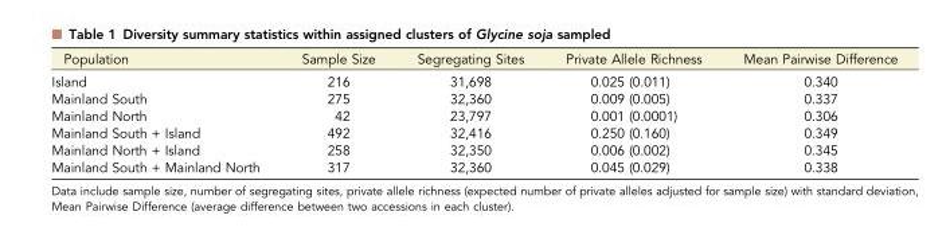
<table><thead><tr><td>Population</td><td>Sample Size</td><td>Segregating Sites</td><td>Private Allele Richness</td><td>Mean Pairwise Difference</td></tr></thead><tbody><tr><td>Island</td><td>216</td><td>31,698</td><td>0.025 (0.011)</td><td>0.340</td></tr><tr><td>Mainland South</td><td>275</td><td>32,360</td><td>0.009 (0.005)</td><td>0.337</td></tr><tr><td>Mainland North</td><td>42</td><td>23,797</td><td>0.001 (0.0001)</td><td>0.306</td></tr><tr><td>Mainland South + Island</td><td>492</td><td>32,416</td><td>0.250 (0.160)</td><td>0.349</td></tr><tr><td>Mainland North + Island</td><td>258</td><td>32,350</td><td>0.006 (0.002)</td><td>0.345</td></tr><tr><td>Mainland South + Mainland North</td><td>317</td><td>32,360</td><td>0.045 (0.029)</td><td>0.338</td></tr></tbody></table>